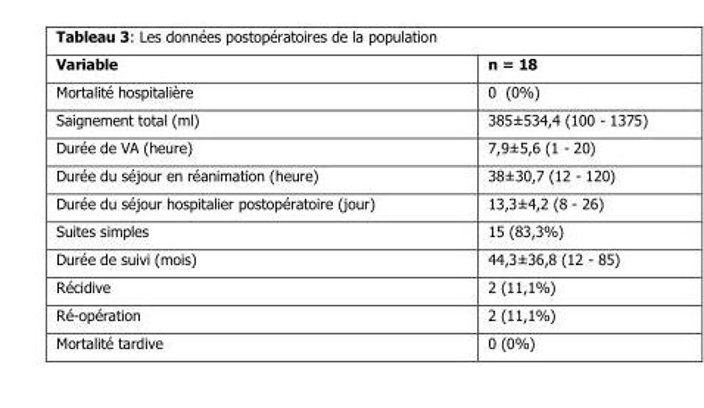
<table><thead><tr><td>Variable</td><td>n = 18</td></tr></thead><tbody><tr><td>Mortalité hospitalière</td><td>0 (0%)</td></tr><tr><td>Saignement total (ml)</td><td>385±534,4 (100 - 1375)</td></tr><tr><td>Durée de VA (heure)</td><td>7,9±5,6 (1 - 20)</td></tr><tr><td>Durée du séjour en réanimation (heure)</td><td>38±30,7 (12 - 120)</td></tr><tr><td>Durée du séjour hospitalier postopératoire (jour)</td><td>13,3±4,2 (8 - 26)</td></tr><tr><td>Suites simples</td><td>15 (83,3%)</td></tr><tr><td>Durée de suivi (mois)</td><td>44,3±36,8 (12 - 85)</td></tr><tr><td>Récidive</td><td>2 (11,1%)</td></tr><tr><td>Ré-opération</td><td>2 (11,1%)</td></tr><tr><td>Mortalité tardive</td><td>0 (0%)</td></tr></tbody></table>